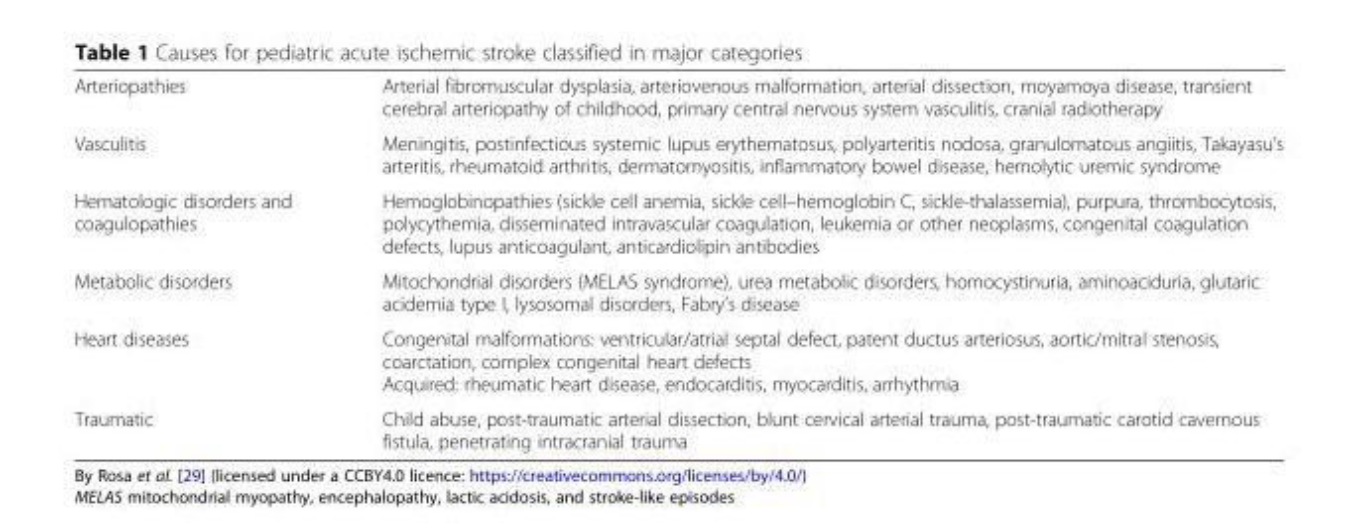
<table><tbody><tr><td>Arteriopathies</td><td>Arterial fibromuscular dysplasia, arteriovenous malformation, arterial dissection, moyamoya disease, transient cerebral arteriopathy of childhood, primary central nervous system vasculitis, cranial radiotherapy</td></tr><tr><td>Vasculitis</td><td>Meningitis, postinfectious systemic lupus erythematosus, polyarteritis nodosa, granulomatous angiitis, Takayasu’s arteritis, rheumatoid arthritis, dermatomyositis, inflammatory bowel disease, hemolytic uremic syndrome</td></tr><tr><td>Hematologic disorders and coagulopathies</td><td>Hemoglobinopathies (sickle cell anemia, sickle cell–hemoglobin C, sickle-thalassemia), purpura, thrombocytosis, polycythemia, disseminated intravascular coagulation, leukemia or other neoplasms, congenital coagulation defects, lupus anticoagulant, anticardiolipin antibodies</td></tr><tr><td>Metabolic disorders</td><td>Mitochondrial disorders (MELAS syndrome), urea metabolic disorders, homocystinuria, aminoaciduria, glutaric acidemia type I, lysosomal disorders, Fabry’s disease</td></tr><tr><td>Heart diseases</td><td>Congenital malformations: ventricular/atrial septal defect, patent ductus arteriosus, aortic/mitral stenosis, coarctation, complex congenital heart defects Acquired: rheumatic heart disease, endocarditis, myocarditis, arrhythmia</td></tr><tr><td>Traumatic</td><td>Child abuse, post-traumatic arterial dissection, blunt cervical arterial trauma, post-traumatic carotid cavernous fistula, penetrating intracranial trauma</td></tr></tbody></table>